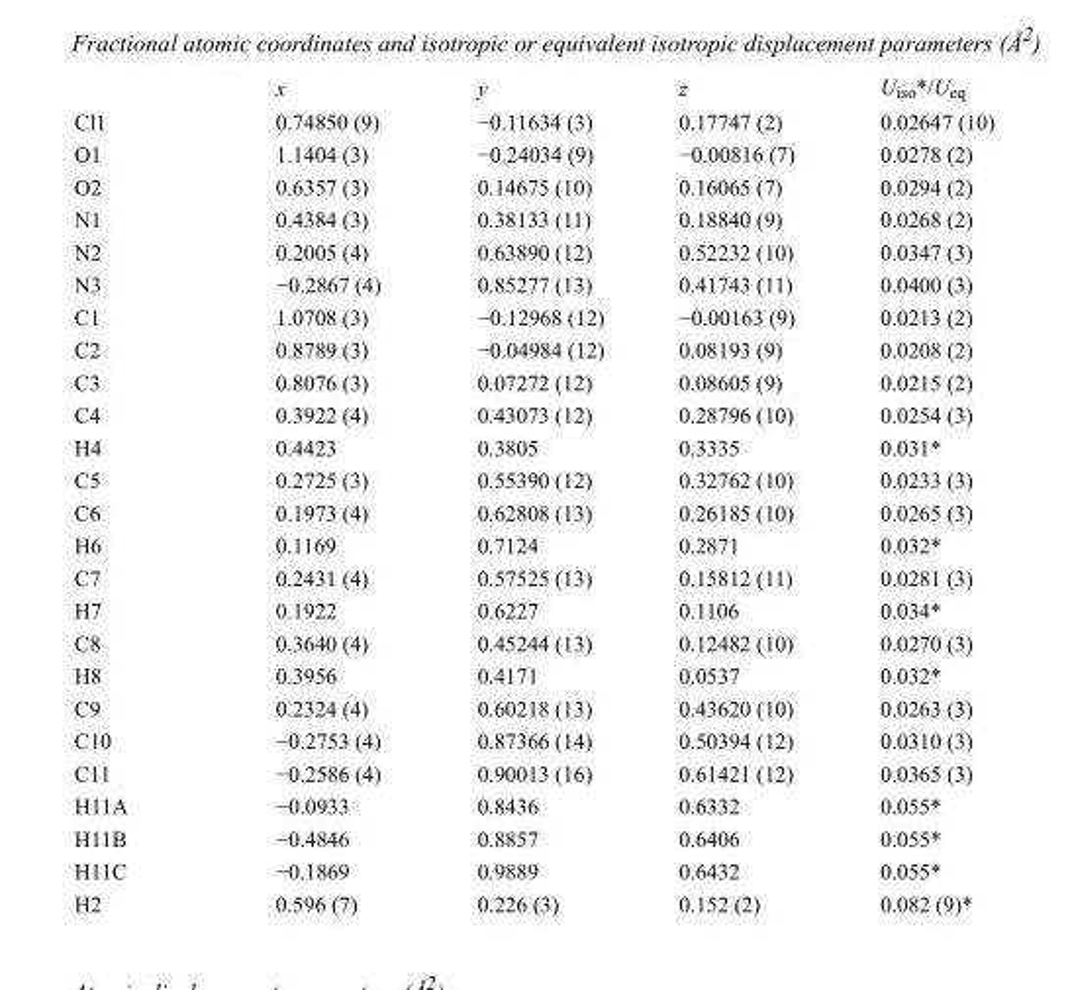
<table><thead><tr><td></td><td>x</td><td>y</td><td>z</td><td>U<sub>iso</sub>*/U<sub>eq</sub></td></tr></thead><tbody><tr><td>Cl1</td><td>0.74850 (9)</td><td>−0.11634 (3)</td><td>0.17747 (2)</td><td>0.02647 (10)</td></tr><tr><td>O1</td><td>1.1404 (3)</td><td>−0.24034 (9)</td><td>−0.00816 (7)</td><td>0.0278 (2)</td></tr><tr><td>O2</td><td>0.6357 (3)</td><td>0.14675 (10)</td><td>0.16065 (7)</td><td>0.0294 (2)</td></tr><tr><td>N1</td><td>0.4384 (3)</td><td>0.38133 (11)</td><td>0.18840 (9)</td><td>0.0268 (2)</td></tr><tr><td>N2</td><td>0.2005 (4)</td><td>0.63890 (12)</td><td>0.52232 (10)</td><td>0.0347 (3)</td></tr><tr><td>N3</td><td>−0.2867 (4)</td><td>0.85277 (13)</td><td>0.41743 (11)</td><td>0.0400 (3)</td></tr><tr><td>C1</td><td>1.0708 (3)</td><td>−0.12968 (12)</td><td>−0.00163 (9)</td><td>0.0213 (2)</td></tr><tr><td>C2</td><td>0.8789 (3)</td><td>−0.04984 (12)</td><td>0.08193 (9)</td><td>0.0208 (2)</td></tr><tr><td>C3</td><td>0.8076 (3)</td><td>0.07272 (12)</td><td>0.08605 (9)</td><td>0.0215 (2)</td></tr><tr><td>C4</td><td>0.3922 (4)</td><td>0.43073 (12)</td><td>0.28796 (10)</td><td>0.0254 (3)</td></tr><tr><td>H4</td><td>0.4423</td><td>0.3805</td><td>0.3335</td><td>0.031*</td></tr><tr><td>C5</td><td>0.2725 (3)</td><td>0.55390 (12)</td><td>0.32762 (10)</td><td>0.0233 (3)</td></tr><tr><td>C6</td><td>0.1973 (4)</td><td>0.62808 (13)</td><td>0.26185 (10)</td><td>0.0265 (3)</td></tr><tr><td>H6</td><td>0.1169</td><td>0.7124</td><td>0.2871</td><td>0.032*</td></tr><tr><td>C7</td><td>0.2431 (4)</td><td>0.57525 (13)</td><td>0.15812 (11)</td><td>0.0281 (3)</td></tr><tr><td>H7</td><td>0.1922</td><td>0.6227</td><td>0.1106</td><td>0.034*</td></tr><tr><td>C8</td><td>0.3640 (4)</td><td>0.45244 (13)</td><td>0.12482 (10)</td><td>0.0270 (3)</td></tr><tr><td>H8</td><td>0.3956</td><td>0.4171</td><td>0.0537</td><td>0.032*</td></tr><tr><td>C9</td><td>0.2324 (4)</td><td>0.60218 (13)</td><td>0.43620 (10)</td><td>0.0263 (3)</td></tr><tr><td>C10</td><td>−0.2753 (4)</td><td>0.87366 (14)</td><td>0.50394 (12)</td><td>0.0310 (3)</td></tr><tr><td>C11</td><td>−0.2586 (4)</td><td>0.90013 (16)</td><td>0.61421 (12)</td><td>0.0365 (3)</td></tr><tr><td>H11A</td><td>−0.0933</td><td>0.8436</td><td>0.6332</td><td>0.055*</td></tr><tr><td>H11B</td><td>−0.4846</td><td>0.8857</td><td>0.6406</td><td>0.055*</td></tr><tr><td>H11C</td><td>−0.1869</td><td>0.9889</td><td>0.6432</td><td>0.055*</td></tr><tr><td>H2</td><td>0.596 (7)</td><td>0.226 (3)</td><td>0.152 (2)</td><td>0.082 (9)*</td></tr></tbody></table>